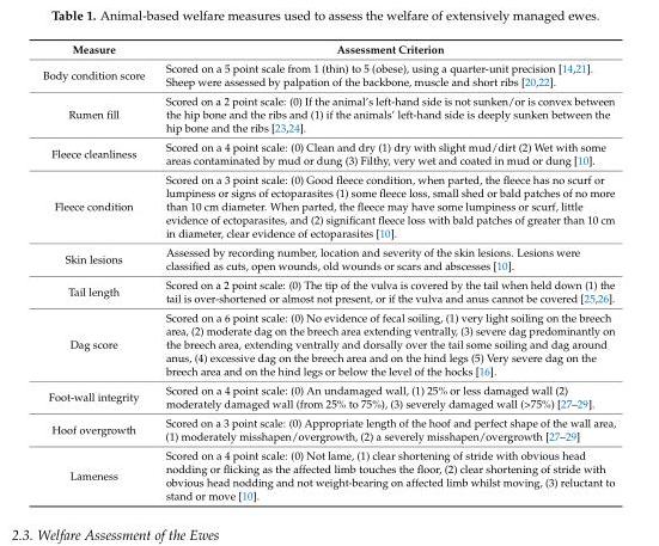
<table><thead><tr><td>Measure</td><td>Assessment Criterion</td></tr></thead><tbody><tr><td>Body condition score</td><td>Scored on a 5 point scale from 1 (thin) to 5 (obese), using a quarter-unit precision [14,21]. Sheep were assessed by palpation of the backbone, muscle and short ribs [20,22].</td></tr><tr><td>Rumen fill</td><td>Scored on a 2 point scale: (0) If the animal’s left-hand side is not sunken/or is convex between the hip bone and the ribs and (1) if the animals’ left-hand side is deeply sunken between the hip bone and the ribs [23,24].</td></tr><tr><td>Fleece cleanliness</td><td>Scored on a 4 point scale: (0) Clean and dry (1) dry with slight mud/dirt (2) Wet with some areas contaminated by mud or dung (3) Filthy, very wet and coated in mud or dung [10].</td></tr><tr><td>Fleece condition</td><td>Scored on a 3 point scale: (0) Good fleece condition, when parted, the fleece has no scurf or lumpiness or signs of ectoparasites (1) some fleece loss, small shed or bald patches of no more than 10 cm diameter. When parted, the fleece may have some lumpiness or scurf, little evidence of ectoparasites, and (2) significant fleece loss with bald patches of greater than 10 cm in diameter, clear evidence of ectoparasites [10].</td></tr><tr><td>Skin lesions</td><td>Assessed by recording number, location and severity of the skin lesions. Lesions were classified as cuts, open wounds, old wounds or scars and abscesses [10].</td></tr><tr><td>Tail length</td><td>Scored on a 2 point scale: (0) The tip of the vulva is covered by the tail when held down (1) the tail is over-shortened or almost not present, or if the vulva and anus cannot be covered [25,26].</td></tr><tr><td>Dag score</td><td>Scored on a 6 point scale: (0) No evidence of fecal soiling, (1) very light soiling on the breech area, (2) moderate dag on the breech area extending ventrally, (3) severe dag predominantly on the breech area, extending ventrally and dorsally over the tail some soiling and dag around anus, (4) excessive dag on the breech area and on the hind legs (5) Very severe dag on the breech area and on the hind legs or below the level of the hocks [16].</td></tr><tr><td>Foot-wall integrity</td><td>Scored on a 4 point scale: (0) An undamaged wall, (1) 25% or less damaged wall (2) moderately damaged wall (from 25% to 75%), (3) severely damaged wall (&gt;75%) [27–29].</td></tr><tr><td>Hoof overgrowth</td><td>Scored on a 3 point scale: (0) Appropriate length of the hoof and perfect shape of the wall area, (1) moderately misshapen/overgrowth, (2) a severely misshapen/overgrowth [27–29]</td></tr><tr><td>Lameness</td><td>Scored on a 4 point scale: (0) Not lame, (1) clear shortening of stride with obvious head nodding or flicking as the affected limb touches the floor, (2) clear shortening of stride with obvious head nodding and not weight-bearing on affected limb whilst moving, (3) reluctant to stand or move [10].</td></tr></tbody></table>